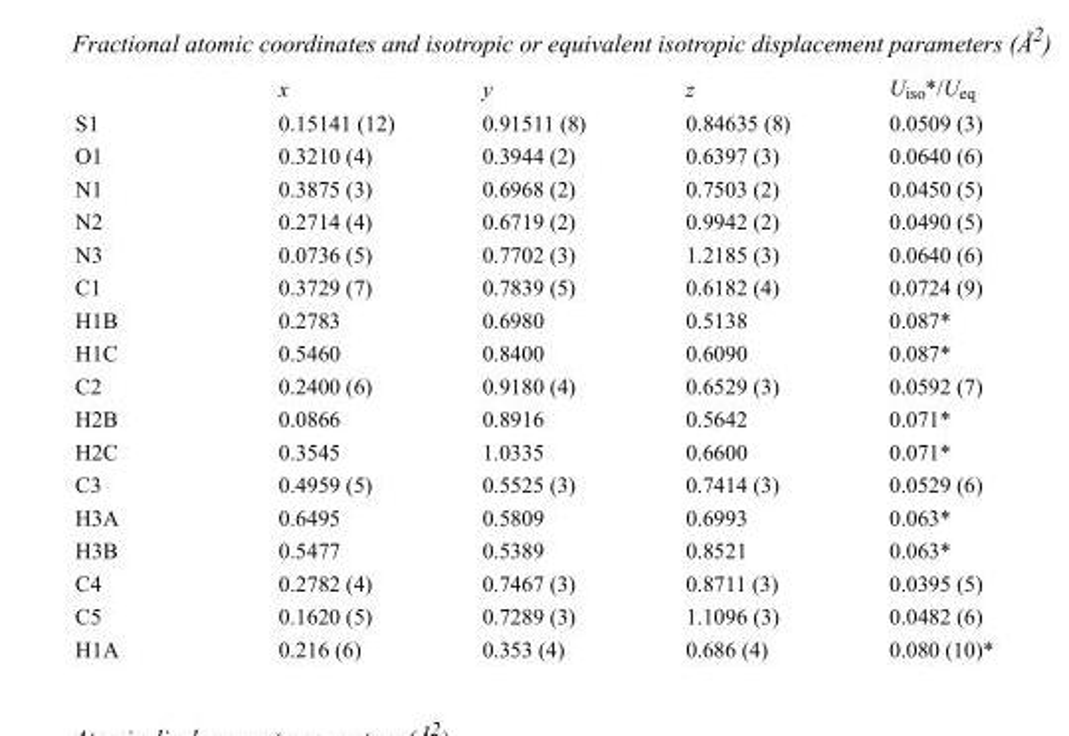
<table><thead><tr><td></td><td>x</td><td>y</td><td>z</td><td>U<sub>iso</sub>*/U<sub>eq</sub></td></tr></thead><tbody><tr><td>S1</td><td>0.15141 (12)</td><td>0.91511 (8)</td><td>0.84635 (8)</td><td>0.0509 (3)</td></tr><tr><td>O1</td><td>0.3210 (4)</td><td>0.3944 (2)</td><td>0.6397 (3)</td><td>0.0640 (6)</td></tr><tr><td>N1</td><td>0.3875 (3)</td><td>0.6968 (2)</td><td>0.7503 (2)</td><td>0.0450 (5)</td></tr><tr><td>N2</td><td>0.2714 (4)</td><td>0.6719 (2)</td><td>0.9942 (2)</td><td>0.0490 (5)</td></tr><tr><td>N3</td><td>0.0736 (5)</td><td>0.7702 (3)</td><td>1.2185 (3)</td><td>0.0640 (6)</td></tr><tr><td>C1</td><td>0.3729 (7)</td><td>0.7839 (5)</td><td>0.6182 (4)</td><td>0.0724 (9)</td></tr><tr><td>H1B</td><td>0.2783</td><td>0.6980</td><td>0.5138</td><td>0.087*</td></tr><tr><td>H1C</td><td>0.5460</td><td>0.8400</td><td>0.6090</td><td>0.087*</td></tr><tr><td>C2</td><td>0.2400 (6)</td><td>0.9180 (4)</td><td>0.6529 (3)</td><td>0.0592 (7)</td></tr><tr><td>H2B</td><td>0.0866</td><td>0.8916</td><td>0.5642</td><td>0.071*</td></tr><tr><td>H2C</td><td>0.3545</td><td>1.0335</td><td>0.6600</td><td>0.071*</td></tr><tr><td>C3</td><td>0.4959 (5)</td><td>0.5525 (3)</td><td>0.7414 (3)</td><td>0.0529 (6)</td></tr><tr><td>H3A</td><td>0.6495</td><td>0.5809</td><td>0.6993</td><td>0.063*</td></tr><tr><td>H3B</td><td>0.5477</td><td>0.5389</td><td>0.8521</td><td>0.063*</td></tr><tr><td>C4</td><td>0.2782 (4)</td><td>0.7467 (3)</td><td>0.8711 (3)</td><td>0.0395 (5)</td></tr><tr><td>C5</td><td>0.1620 (5)</td><td>0.7289 (3)</td><td>1.1096 (3)</td><td>0.0482 (6)</td></tr><tr><td>H1A</td><td>0.216 (6)</td><td>0.353 (4)</td><td>0.686 (4)</td><td>0.080 (10)*</td></tr></tbody></table>